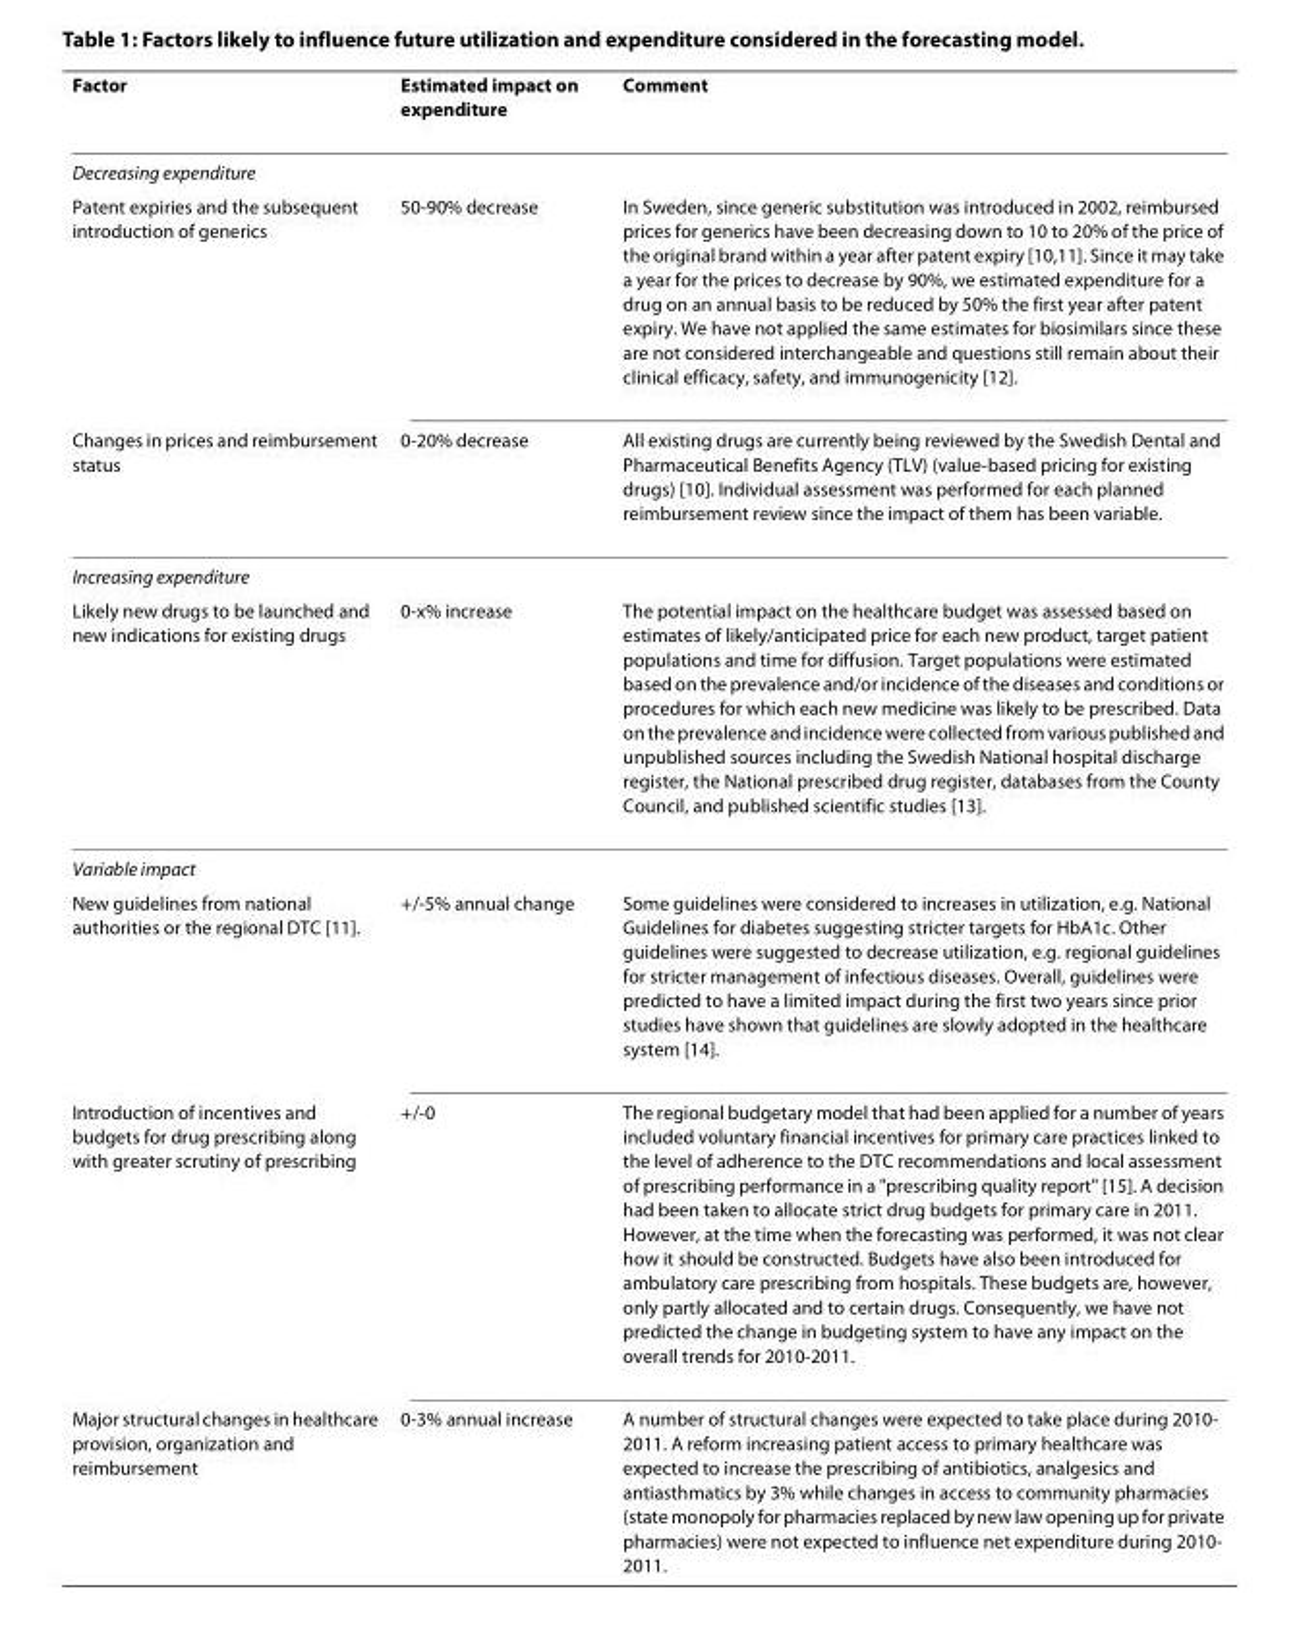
<table><thead><tr><td>Factor</td><td>Estimated impact on expenditure</td><td>Comment</td></tr></thead><tbody><tr><td colspan="3">Decreasing expenditure</td></tr><tr><td>Patent expiries and the subsequent introduction of generics</td><td>50-90% decrease</td><td>In Sweden, since generic substitution was introduced in 2002, reimbursed prices for generics have been decreasing down to 10 to 20% of the price of the original brand within a year after patent expiry [10,11]. Since it may take a year for the prices to decrease by 90%, we estimated expenditure for a drug on an annual basis to be reduced by 50% the first year after patent expiry. We have not applied the same estimates for biosimilars since these are not considered interchangeable and questions still remain about their clinical efficacy, safety, and immunogenicity [12].</td></tr><tr><td>Changes in prices and reimbursement status</td><td>0-20% decrease</td><td>All existing drugs are currently being reviewed by the Swedish Dental and Pharmaceutical Benefits Agency (TLV) (value-based pricing for existing drugs) [10]. Individual assessment was performed for each planned reimbursement review since the impact of them has been variable.</td></tr><tr><td colspan="3">Increasing expenditure</td></tr><tr><td>Likely new drugs to be launched and new indications for existing drugs</td><td>0-x% increase</td><td>The potential impact on the healthcare budget was assessed based on estimates of likely/anticipated price for each new product, target patient populations and time for diffusion. Target populations were estimated based on the prevalence and/or incidence of the diseases and conditions or procedures for which each new medicine was likely to be prescribed. Data on the prevalence and incidence were collected from various published and unpublished sources including the Swedish National hospital discharge register, the National prescribed drug register, databases from the County Council, and published scientific studies [13].</td></tr><tr><td colspan="3">Variable impact</td></tr><tr><td>New guidelines from national authorities or the regional DTC [11].</td><td>+/-5% annual change</td><td>Some guidelines were considered to increases in utilization, e.g. National Guidelines for diabetes suggesting stricter targets for HbA1c. Other guidelines were suggested to decrease utilization, e.g. regional guidelines for stricter management of infectious diseases. Overall, guidelines were predicted to have a limited impact during the first two years since prior studies have shown that guidelines are slowly adopted in the healthcare system [14].</td></tr><tr><td>Introduction of incentives and budgets for drug prescribing along with greater scrutiny of prescribing</td><td>+/-0</td><td>The regional budgetary model that had been applied for a number of years included voluntary financial incentives for primary care practices linked to the level of adherence to the DTC recommendations and local assessment of prescribing performance in a &quot;prescribing quality report&quot; [15]. A decision had been taken to allocate strict drug budgets for primary care in 2011. However, at the time when the forecasting was performed, it was not clear how it should be constructed. Budgets have also been introduced for ambulatory care prescribing from hospitals. These budgets are, however, only partly allocated and to certain drugs. Consequently, we have not predicted the change in budgeting system to have any impact on the overall trends for 2010-2011.</td></tr><tr><td>Major structural changes in healthcare provision, organization and reimbursement</td><td>0-3% annual increase</td><td>A number of structural changes were expected to take place during 2010- 2011. A reform increasing patient access to primary healthcare was expected to increase the prescribing of antibiotics, analgesics and antiasthmatics by 3% while changes in access to community pharmacies (state monopoly for pharmacies replaced by new law opening up for private pharmacies) were not expected to influence net expenditure during 2010- 2011.</td></tr></tbody></table>